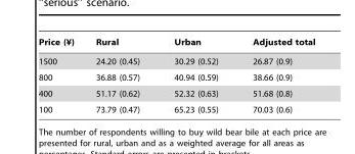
<table><thead><tr><td>Price (¥)</td><td>Rural</td><td>Urban</td><td>Adjusted total</td></tr></thead><tbody><tr><td>1500</td><td>24.20 (0.45)</td><td>30.29 (0.52)</td><td>26.87 (0.9)</td></tr><tr><td>800</td><td>36.88 (0.57)</td><td>40.94 (0.59)</td><td>38.66 (0.9)</td></tr><tr><td>400</td><td>51.17 (0.62)</td><td>52.32 (0.63)</td><td>51.68 (0.8)</td></tr><tr><td>100</td><td>73.79 (0.47)</td><td>65.23 (0.55)</td><td>70.03 (0.6)</td></tr></tbody></table>